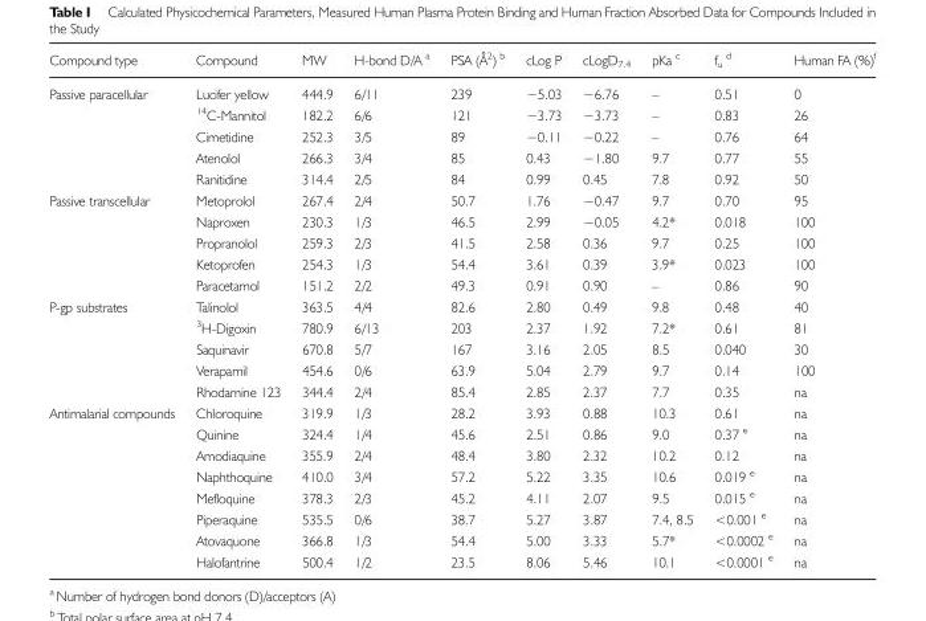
<table><thead><tr><td>Compound type</td><td>Compound</td><td>MW</td><td>H-bond D/A <sup>a</sup></td><td>PSA (Å<sup>2</sup>) <sup>b</sup></td><td>cLog P</td><td>cLogD<sub>7.4</sub></td><td>pKa <sup>c</sup></td><td>f<sub>u</sub> <sup>d</sup></td><td>Human FA (%)<sup>f</sup></td></tr></thead><tbody><tr><td rowspan="5">Passive paracellular</td><td>Lucifer yellow</td><td>444.9</td><td>6/11</td><td>239</td><td>−5.03</td><td>−6.76</td><td>–</td><td>0.51</td><td>0</td></tr><tr><td><sup>14</sup>C-Mannitol</td><td>182.2</td><td>6/6</td><td>121</td><td>−3.73</td><td>−3.73</td><td>–</td><td>0.83</td><td>26</td></tr><tr><td>Cimetidine</td><td>252.3</td><td>3/5</td><td>89</td><td>−0.11</td><td>−0.22</td><td>–</td><td>0.76</td><td>64</td></tr><tr><td>Atenolol</td><td>266.3</td><td>3/4</td><td>85</td><td>0.43</td><td>−1.80</td><td>9.7</td><td>0.77</td><td>55</td></tr><tr><td>Ranitidine</td><td>314.4</td><td>2/5</td><td>84</td><td>0.99</td><td>0.45</td><td>7.8</td><td>0.92</td><td>50</td></tr><tr><td rowspan="5">Passive transcellular</td><td>Metoprolol</td><td>267.4</td><td>2/4</td><td>50.7</td><td>1.76</td><td>−0.47</td><td>9.7</td><td>0.70</td><td>95</td></tr><tr><td>Naproxen</td><td>230.3</td><td>1/3</td><td>46.5</td><td>2.99</td><td>−0.05</td><td>4.2*</td><td>0.018</td><td>100</td></tr><tr><td>Propranolol</td><td>259.3</td><td>2/3</td><td>41.5</td><td>2.58</td><td>0.36</td><td>9.7</td><td>0.25</td><td>100</td></tr><tr><td>Ketoprofen</td><td>254.3</td><td>1/3</td><td>54.4</td><td>3.61</td><td>0.39</td><td>3.9*</td><td>0.023</td><td>100</td></tr><tr><td>Paracetamol</td><td>151.2</td><td>2/2</td><td>49.3</td><td>0.91</td><td>0.90</td><td>–</td><td>0.86</td><td>90</td></tr><tr><td rowspan="5">P-gp substrates</td><td>Talinolol</td><td>363.5</td><td>4/4</td><td>82.6</td><td>2.80</td><td>0.49</td><td>9.8</td><td>0.48</td><td>40</td></tr><tr><td><sup>3</sup>H-Digoxin</td><td>780.9</td><td>6/13</td><td>203</td><td>2.37</td><td>1.92</td><td>7.2*</td><td>0.61</td><td>81</td></tr><tr><td>Saquinavir</td><td>670.8</td><td>5/7</td><td>167</td><td>3.16</td><td>2.05</td><td>8.5</td><td>0.040</td><td>30</td></tr><tr><td>Verapamil</td><td>454.6</td><td>0/6</td><td>63.9</td><td>5.04</td><td>2.79</td><td>9.7</td><td>0.14</td><td>100</td></tr><tr><td>Rhodamine 123</td><td>344.4</td><td>2/4</td><td>85.4</td><td>2.85</td><td>2.37</td><td>7.7</td><td>0.35</td><td>na</td></tr><tr><td rowspan="8">Antimalarial compounds</td><td>Chloroquine</td><td>319.9</td><td>1/3</td><td>28.2</td><td>3.93</td><td>0.88</td><td>10.3</td><td>0.61</td><td>na</td></tr><tr><td>Quinine</td><td>324.4</td><td>1/4</td><td>45.6</td><td>2.51</td><td>0.86</td><td>9.0</td><td>0.37 <sup>e</sup></td><td>na</td></tr><tr><td>Amodiaquine</td><td>355.9</td><td>2/4</td><td>48.4</td><td>3.80</td><td>2.32</td><td>10.2</td><td>0.12</td><td>na</td></tr><tr><td>Naphthoquine</td><td>410.0</td><td>3/4</td><td>57.2</td><td>5.22</td><td>3.35</td><td>10.6</td><td>0.019 <sup>e</sup></td><td>na</td></tr><tr><td>Mefloquine</td><td>378.3</td><td>2/3</td><td>45.2</td><td>4.11</td><td>2.07</td><td>9.5</td><td>0.015 <sup>e</sup></td><td>na</td></tr><tr><td>Piperaquine</td><td>535.5</td><td>0/6</td><td>38.7</td><td>5.27</td><td>3.87</td><td>7.4, 8.5</td><td>&lt;0.001 <sup>e</sup></td><td>na</td></tr><tr><td>Atovaquone</td><td>366.8</td><td>1/3</td><td>54.4</td><td>5.00</td><td>3.33</td><td>5.7*</td><td>&lt;0.0002 <sup>e</sup></td><td>na</td></tr><tr><td>Halofantrine</td><td>500.4</td><td>1/2</td><td>23.5</td><td>8.06</td><td>5.46</td><td>10.1</td><td>&lt;0.0001 <sup>e</sup></td><td>na</td></tr></tbody></table>